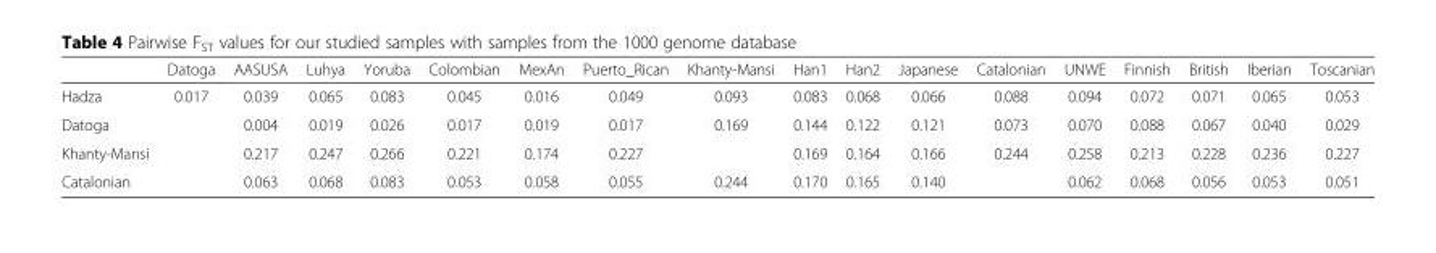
<table><thead><tr><td></td><td>Datoga</td><td>AASUSA</td><td>Luhya</td><td>Yoruba</td><td>Colombian</td><td>MexAn</td><td>Puerto_Rican</td><td>Khanty-Mansi</td><td>Han1</td><td>Han2</td><td>Japanese</td><td>Catalonian</td><td>UNWE</td><td>Finnish</td><td>British</td><td>Iberian</td><td>Toscanian</td></tr></thead><tbody><tr><td>Hadza</td><td>0.017</td><td>0.039</td><td>0.065</td><td>0.083</td><td>0.045</td><td>0.016</td><td>0.049</td><td>0.093</td><td>0.083</td><td>0.068</td><td>0.066</td><td>0.088</td><td>0.094</td><td>0.072</td><td>0.071</td><td>0.065</td><td>0.053</td></tr><tr><td>Datoga</td><td></td><td>0.004</td><td>0.019</td><td>0.026</td><td>0.017</td><td>0.019</td><td>0.017</td><td>0.169</td><td>0.144</td><td>0.122</td><td>0.121</td><td>0.073</td><td>0.070</td><td>0.088</td><td>0.067</td><td>0.040</td><td>0.029</td></tr><tr><td>Khanty-Mansi</td><td></td><td>0.217</td><td>0.247</td><td>0.266</td><td>0.221</td><td>0.174</td><td>0.227</td><td></td><td>0.169</td><td>0.164</td><td>0.166</td><td>0.244</td><td>0.258</td><td>0.213</td><td>0.228</td><td>0.236</td><td>0.227</td></tr><tr><td>Catalonian</td><td></td><td>0.063</td><td>0.068</td><td>0.083</td><td>0.053</td><td>0.058</td><td>0.055</td><td>0.244</td><td>0.170</td><td>0.165</td><td>0.140</td><td></td><td>0.062</td><td>0.068</td><td>0.056</td><td>0.053</td><td>0.051</td></tr></tbody></table>